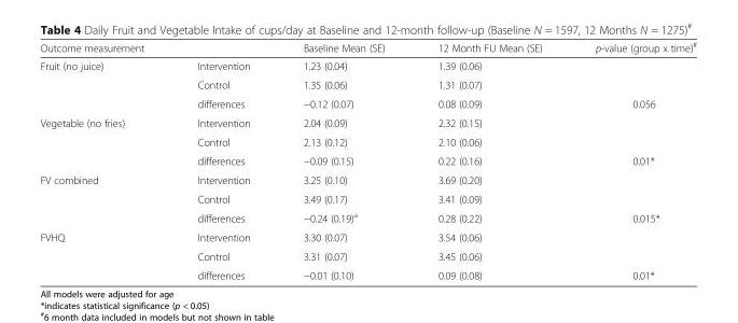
<table><thead><tr><td>Outcome measurement</td><td></td><td>Baseline Mean (SE)</td><td>12 Month FU Mean (SE)</td><td>p-value (group x time)<sup>#</sup></td></tr></thead><tbody><tr><td rowspan="3">Fruit (no juice)</td><td>Intervention</td><td>1.23 (0.04)</td><td>1.39 (0.06)</td><td></td></tr><tr><td>Control</td><td>1.35 (0.06)</td><td>1.31 (0.07)</td><td></td></tr><tr><td>differences</td><td>−0.12 (0.07)</td><td>0.08 (0.09)</td><td>0.056</td></tr><tr><td rowspan="3">Vegetable (no fries)</td><td>Intervention</td><td>2.04 (0.09)</td><td>2.32 (0.15)</td><td></td></tr><tr><td>Control</td><td>2.13 (0.12)</td><td>2.10 (0.06)</td><td></td></tr><tr><td>differences</td><td>−0.09 (0.15)</td><td>0.22 (0.16)</td><td>0.01*</td></tr><tr><td rowspan="3">FV combined</td><td>Intervention</td><td>3.25 (0.10)</td><td>3.69 (0.20)</td><td></td></tr><tr><td>Control</td><td>3.49 (0.17)</td><td>3.41 (0.09)</td><td></td></tr><tr><td>differences</td><td>−0.24 (0.19)<sup>a</sup></td><td>0.28 (0.22)</td><td>0.015*</td></tr><tr><td rowspan="3">FVHQ</td><td>Intervention</td><td>3.30 (0.07)</td><td>3.54 (0.06)</td><td></td></tr><tr><td>Control</td><td>3.31 (0.07)</td><td>3.45 (0.06)</td><td></td></tr><tr><td>differences</td><td>−0.01 (0.10)</td><td>0.09 (0.08)</td><td>0.01*</td></tr></tbody></table>